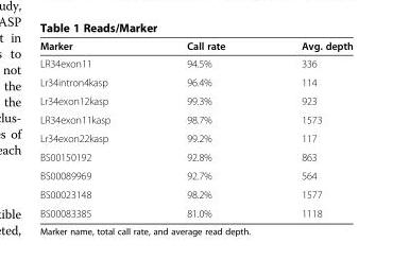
<table><thead><tr><td>Marker</td><td>Call rate</td><td>Avg. depth</td></tr></thead><tbody><tr><td>LR34exon11</td><td>94.5%</td><td>336</td></tr><tr><td>Lr34intron4kasp</td><td>96.4%</td><td>114</td></tr><tr><td>Lr34exon12kasp</td><td>99.3%</td><td>923</td></tr><tr><td>LR34exon11kasp</td><td>98.7%</td><td>1573</td></tr><tr><td>Lr34exon22kasp</td><td>99.2%</td><td>117</td></tr><tr><td>BS00150192</td><td>92.8%</td><td>863</td></tr><tr><td>BS00089969</td><td>92.7%</td><td>564</td></tr><tr><td>BS00023148</td><td>98.2%</td><td>1577</td></tr><tr><td>BS00083385</td><td>81.0%</td><td>1118</td></tr></tbody></table>